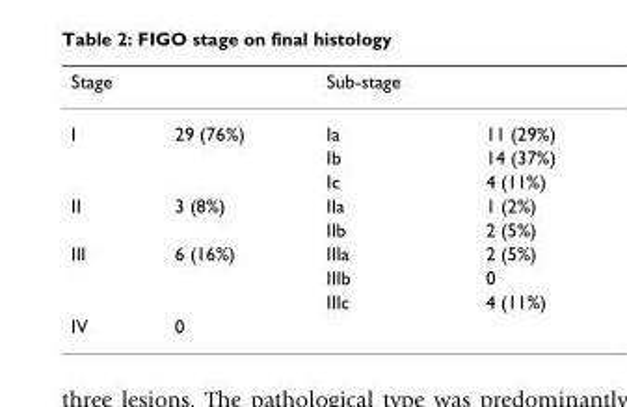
<table><thead><tr><td>Stage</td><td></td><td>Sub-stage</td><td></td></tr></thead><tbody><tr><td rowspan="3">I</td><td>29 (76%)</td><td>Ia</td><td>11 (29%)</td></tr><tr><td></td><td>Ib</td><td>14 (37%)</td></tr><tr><td></td><td>Ic</td><td>4 (11%)</td></tr><tr><td rowspan="2">II</td><td>3 (8%)</td><td>IIa</td><td>1 (2%)</td></tr><tr><td></td><td>IIb</td><td>2 (5%)</td></tr><tr><td rowspan="3">III</td><td>6 (16%)</td><td>IIIa</td><td>2 (5%)</td></tr><tr><td></td><td>IIIb</td><td>0</td></tr><tr><td></td><td>IIIc</td><td>4 (11%)</td></tr><tr><td>IV</td><td>0</td><td></td><td></td></tr></tbody></table>